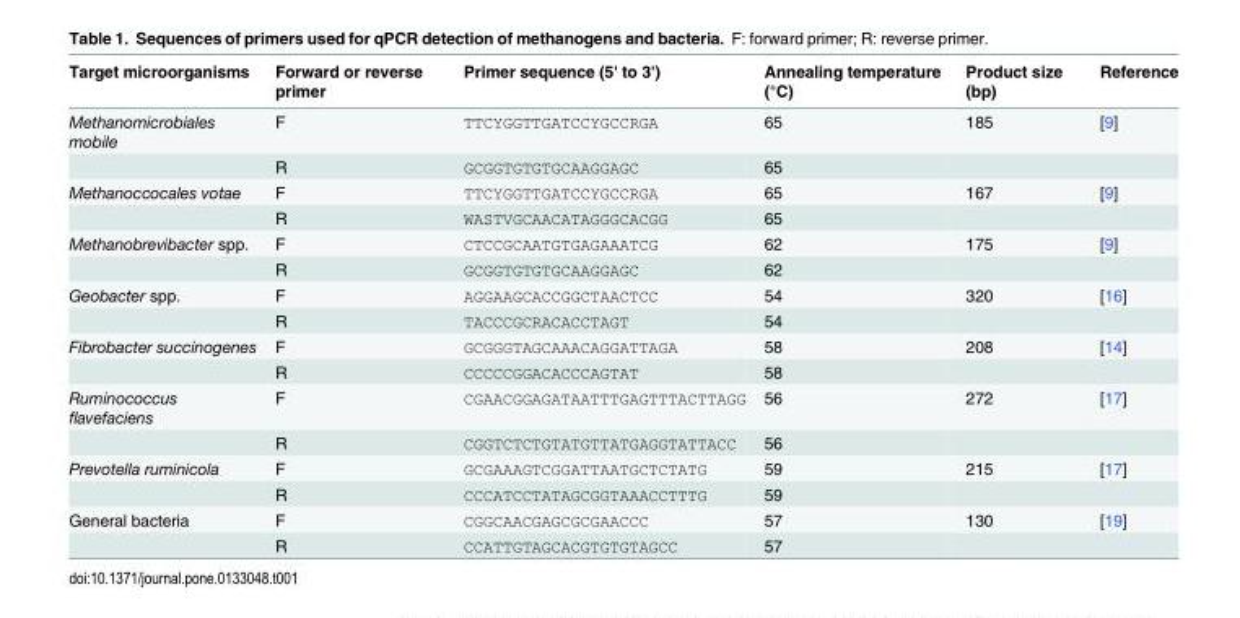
<table><thead><tr><td>Target microorganisms</td><td>Forward or reverse primer</td><td>Primer sequence (5&#x27; to 3&#x27;)</td><td>Annealing temperature (°C)</td><td>Product size (bp)</td><td>Reference</td></tr></thead><tbody><tr><td rowspan="2">Methanomicrobiales mobile</td><td>F</td><td>TTCYGGTTGATCCYGCCRGA</td><td>65</td><td>185</td><td>[9]</td></tr><tr><td>R</td><td>GCGGTGTGTGCAAGGAGC</td><td>65</td><td></td><td></td></tr><tr><td rowspan="2">Methanoccocales votae</td><td>F</td><td>TTCYGGTTGATCCYGCCRGA</td><td>65</td><td>167</td><td>[9]</td></tr><tr><td>R</td><td>WASTVGCAACATAGGGCACGG</td><td>65</td><td></td><td></td></tr><tr><td rowspan="2">Methanobrevibacter spp.</td><td>F</td><td>CTCCGCAATGTGAGAAATCG</td><td>62</td><td>175</td><td>[9]</td></tr><tr><td>R</td><td>GCGGTGTGTGCAAGGAGC</td><td>62</td><td></td><td></td></tr><tr><td rowspan="2">Geobacter spp.</td><td>F</td><td>AGGAAGCACCGGCTAACTCC</td><td>54</td><td>320</td><td>[16]</td></tr><tr><td>R</td><td>TACCCGCRACACCTAGT</td><td>54</td><td></td><td></td></tr><tr><td rowspan="2">Fibrobacter succinogenes</td><td>F</td><td>GCGGGTAGCAAACAGGATTAGA</td><td>58</td><td>208</td><td>[14]</td></tr><tr><td>R</td><td>CCCCCGGACACCCAGTAT</td><td>58</td><td></td><td></td></tr><tr><td rowspan="2">Ruminococcus flavefaciens</td><td>F</td><td>CGAACGGAGATAATTTGAGTTTACTTAGG</td><td>56</td><td>272</td><td>[17]</td></tr><tr><td>R</td><td>CGGTCTCTGTATGTTATGAGGTATTACC</td><td>56</td><td></td><td></td></tr><tr><td rowspan="2">Prevotella ruminicola</td><td>F</td><td>GCGAAAGTCGGATTAATGCTCTATG</td><td>59</td><td>215</td><td>[17]</td></tr><tr><td>R</td><td>CCCATCCTATAGCGGTAAACCTTTG</td><td>59</td><td></td><td></td></tr><tr><td rowspan="2">General bacteria</td><td>F</td><td>CGGCAACGAGCGCGAACCC</td><td>57</td><td>130</td><td>[19]</td></tr><tr><td>R</td><td>CCATTGTAGCACGTGTGTAGCC</td><td>57</td><td></td><td></td></tr></tbody></table>